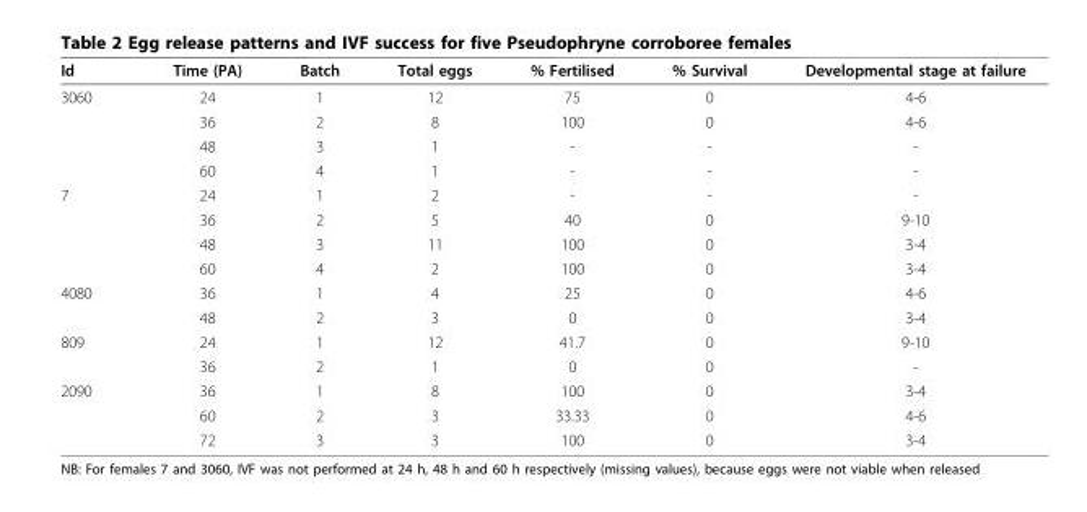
<table><thead><tr><td>Id</td><td>Time (PA)</td><td>Batch</td><td>Total eggs</td><td>% Fertilised</td><td>% Survival</td><td>Developmental stage at failure</td></tr></thead><tbody><tr><td rowspan="4">3060</td><td>24</td><td>1</td><td>12</td><td>75</td><td>0</td><td>4-6</td></tr><tr><td>36</td><td>2</td><td>8</td><td>100</td><td>0</td><td>4-6</td></tr><tr><td>48</td><td>3</td><td>1</td><td>-</td><td>-</td><td>-</td></tr><tr><td>60</td><td>4</td><td>1</td><td>-</td><td>-</td><td>-</td></tr><tr><td rowspan="4">7</td><td>24</td><td>1</td><td>2</td><td>-</td><td>-</td><td>-</td></tr><tr><td>36</td><td>2</td><td>5</td><td>40</td><td>0</td><td>9-10</td></tr><tr><td>48</td><td>3</td><td>11</td><td>100</td><td>0</td><td>3-4</td></tr><tr><td>60</td><td>4</td><td>2</td><td>100</td><td>0</td><td>3-4</td></tr><tr><td rowspan="2">4080</td><td>36</td><td>1</td><td>4</td><td>25</td><td>0</td><td>4-6</td></tr><tr><td>48</td><td>2</td><td>3</td><td>0</td><td>0</td><td>3-4</td></tr><tr><td rowspan="2">809</td><td>24</td><td>1</td><td>12</td><td>41.7</td><td>0</td><td>9-10</td></tr><tr><td>36</td><td>2</td><td>1</td><td>0</td><td>0</td><td>-</td></tr><tr><td rowspan="3">2090</td><td>36</td><td>1</td><td>8</td><td>100</td><td>0</td><td>3-4</td></tr><tr><td>60</td><td>2</td><td>3</td><td>33.33</td><td>0</td><td>4-6</td></tr><tr><td>72</td><td>3</td><td>3</td><td>100</td><td>0</td><td>3-4</td></tr></tbody></table>